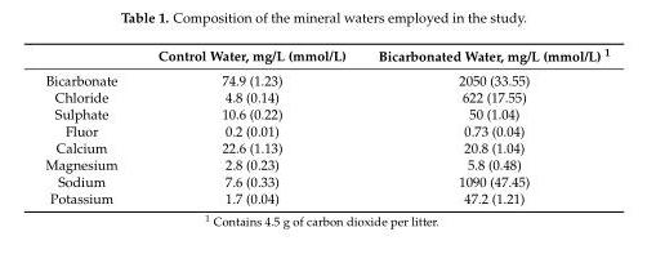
<table><thead><tr><td></td><td>Control Water, mg/L (mmol/L)</td><td>Bicarbonated Water, mg/L (mmol/L) <sup>1</sup></td></tr></thead><tbody><tr><td>Bicarbonate</td><td>74.9 (1.23)</td><td>2050 (33.55)</td></tr><tr><td>Chloride</td><td>4.8 (0.14)</td><td>622 (17.55)</td></tr><tr><td>Sulphate</td><td>10.6 (0.22)</td><td>50 (1.04)</td></tr><tr><td>Fluor</td><td>0.2 (0.01)</td><td>0.73 (0.04)</td></tr><tr><td>Calcium</td><td>22.6 (1.13)</td><td>20.8 (1.04)</td></tr><tr><td>Magnesium</td><td>2.8 (0.23)</td><td>5.8 (0.48)</td></tr><tr><td>Sodium</td><td>7.6 (0.33)</td><td>1090 (47.45)</td></tr><tr><td>Potassium</td><td>1.7 (0.04)</td><td>47.2 (1.21)</td></tr></tbody></table>